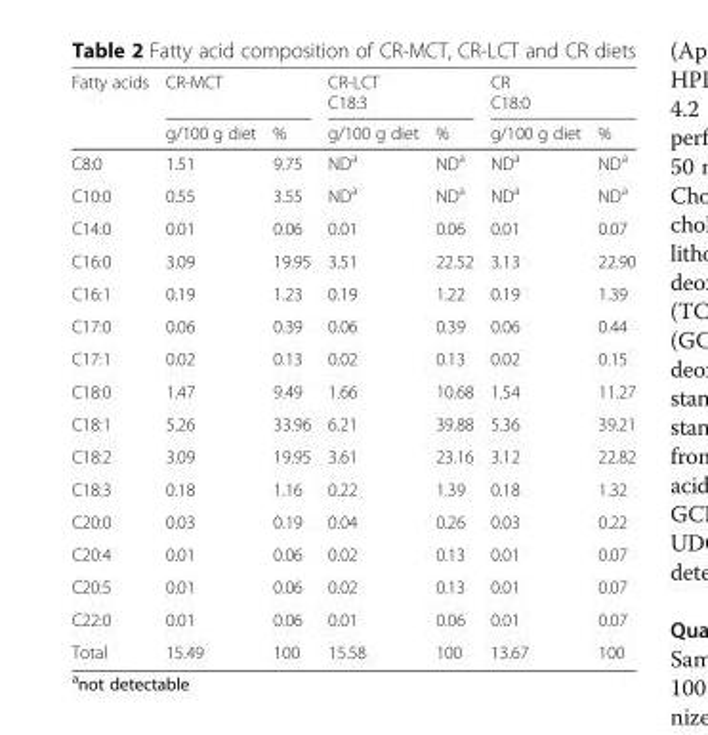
<table><thead><tr><td rowspan="2">Fatty acids</td><td colspan="2">CR-MCT</td><td colspan="2">CR-LCT C18:3</td><td colspan="2">CR C18:0</td></tr><tr><td>g/100 g diet</td><td>%</td><td>g/100 g diet</td><td>%</td><td>g/100 g diet</td><td>%</td></tr></thead><tbody><tr><td>C8:0</td><td>1.51</td><td>9.75</td><td>ND<sup>a</sup></td><td>ND<sup>a</sup></td><td>ND<sup>a</sup></td><td>ND<sup>a</sup></td></tr><tr><td>C10:0</td><td>0.55</td><td>3.55</td><td>ND<sup>a</sup></td><td>ND<sup>a</sup></td><td>ND<sup>a</sup></td><td>ND<sup>a</sup></td></tr><tr><td>C14:0</td><td>0.01</td><td>0.06</td><td>0.01</td><td>0.06</td><td>0.01</td><td>0.07</td></tr><tr><td>C16:0</td><td>3.09</td><td>19.95</td><td>3.51</td><td>22.52</td><td>3.13</td><td>22.90</td></tr><tr><td>C16:1</td><td>0.19</td><td>1.23</td><td>0.19</td><td>1.22</td><td>0.19</td><td>1.39</td></tr><tr><td>C17:0</td><td>0.06</td><td>0.39</td><td>0.06</td><td>0.39</td><td>0.06</td><td>0.44</td></tr><tr><td>C17:1</td><td>0.02</td><td>0.13</td><td>0.02</td><td>0.13</td><td>0.02</td><td>0.15</td></tr><tr><td>C18:0</td><td>1.47</td><td>9.49</td><td>1.66</td><td>10.68</td><td>1.54</td><td>11.27</td></tr><tr><td>C18:1</td><td>5.26</td><td>33.96</td><td>6.21</td><td>39.88</td><td>5.36</td><td>39.21</td></tr><tr><td>C18:2</td><td>3.09</td><td>19.95</td><td>3.61</td><td>23.16</td><td>3.12</td><td>22.82</td></tr><tr><td>C18:3</td><td>0.18</td><td>1.16</td><td>0.22</td><td>1.39</td><td>0.18</td><td>1.32</td></tr><tr><td>C20:0</td><td>0.03</td><td>0.19</td><td>0.04</td><td>0.26</td><td>0.03</td><td>0.22</td></tr><tr><td>C20:4</td><td>0.01</td><td>0.06</td><td>0.02</td><td>0.13</td><td>0.01</td><td>0.07</td></tr><tr><td>C20:5</td><td>0.01</td><td>0.06</td><td>0.02</td><td>0.13</td><td>0.01</td><td>0.07</td></tr><tr><td>C22:0</td><td>0.01</td><td>0.06</td><td>0.01</td><td>0.06</td><td>0.01</td><td>0.07</td></tr><tr><td>Total</td><td>15.49</td><td>100</td><td>15.58</td><td>100</td><td>13.67</td><td>100</td></tr></tbody></table>